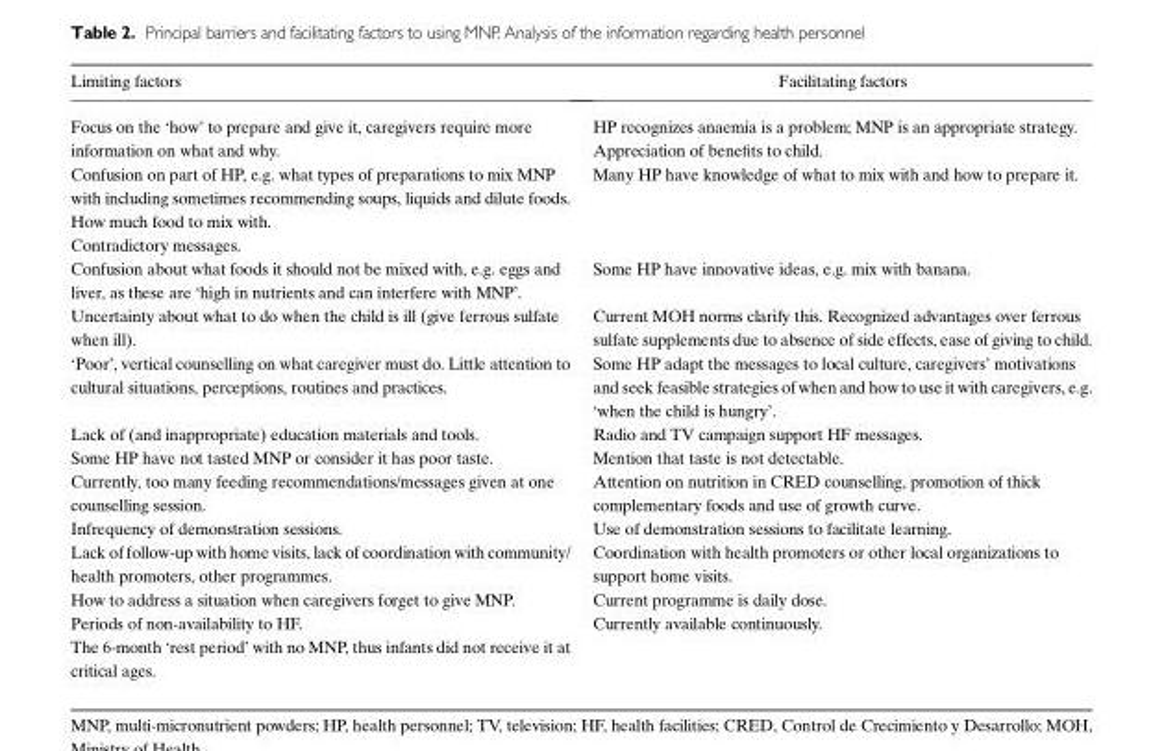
<table><thead><tr><td>Limiting factors</td><td>Facilitating factors</td></tr></thead><tbody><tr><td>Focus on the ‘how’ to prepare and give it, caregivers require more information on what and why.</td><td>HP recognizes anaemia is a problem; MNP is an appropriate strategy. Appreciation of benefits to child.</td></tr><tr><td>Confusion on part of HP, e.g. what types of preparations to mix MNP with including sometimes recommending soups, liquids and dilute foods. How much food to mix with.</td><td rowspan="2">Many HP have knowledge of what to mix with and how to prepare it.</td></tr><tr><td>Contradictory messages.</td></tr><tr><td>Confusion about what foods it should not be mixed with, e.g. eggs and liver, as these are ‘high in nutrients and can interfere with MNP’.</td><td>Some HP have innovative ideas, e.g. mix with banana.</td></tr><tr><td>Uncertainty about what to do when the child is ill (give ferrous sulfate when ill).</td><td>Current MOH norms clarify this. Recognized advantages over ferrous sulfate supplements due to absence of side effects, ease of giving to child.</td></tr><tr><td>‘Poor’, vertical counselling on what caregiver must do. Little attention to cultural situations, perceptions, routines and practices.</td><td>Some HP adapt the messages to local culture, caregivers’ motivations and seek feasible strategies of when and how to use it with caregivers, e.g. ‘when the child is hungry’.</td></tr><tr><td>Lack of (and inappropriate) education materials and tools.</td><td>Radio and TV campaign support HF messages.</td></tr><tr><td>Some HP have not tasted MNP or consider it has poor taste.</td><td>Mention that taste is not detectable.</td></tr><tr><td>Currently, too many feeding recommendations/messages given at one counselling session.</td><td>Attention on nutrition in CRED counselling, promotion of thick complementary foods and use of growth curve.</td></tr><tr><td>Infrequency of demonstration sessions.</td><td>Use of demonstration sessions to facilitate learning.</td></tr><tr><td>Lack of follow-up with home visits, lack of coordination with community/ health promoters, other programmes.</td><td>Coordination with health promoters or other local organizations to support home visits.</td></tr><tr><td>How to address a situation when caregivers forget to give MNP.</td><td>Current programme is daily dose.</td></tr><tr><td>Periods of non-availability to HF.</td><td rowspan="2">Currently available continuously.</td></tr><tr><td>The 6-month ‘rest period’ with no MNP, thus infants did not receive it at critical ages.</td></tr></tbody></table>